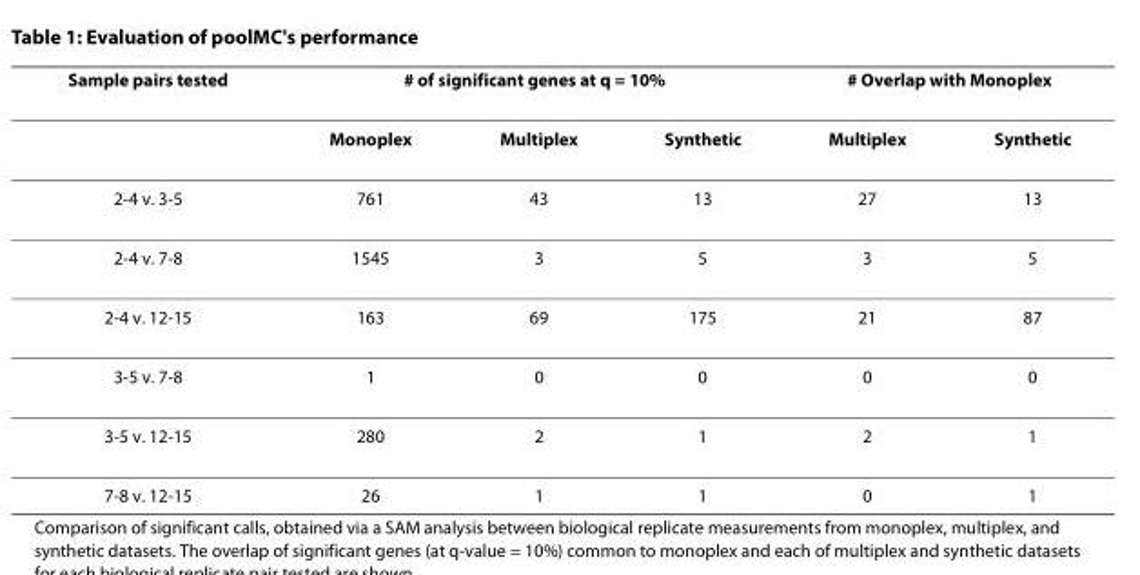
<table><thead><tr><td rowspan="2">Sample pairs tested</td><td colspan="3"># of significant genes at q = 10%</td><td colspan="2"># Overlap with Monoplex</td></tr><tr><td>Monoplex</td><td>Multiplex</td><td>Synthetic</td><td>Multiplex</td><td>Synthetic</td></tr></thead><tbody><tr><td>2-4 v. 3-5</td><td>761</td><td>43</td><td>13</td><td>27</td><td>13</td></tr><tr><td>2-4 v. 7-8</td><td>1545</td><td>3</td><td>5</td><td>3</td><td>5</td></tr><tr><td>2-4 v. 12-15</td><td>163</td><td>69</td><td>175</td><td>21</td><td>87</td></tr><tr><td>3-5 v. 7-8</td><td>1</td><td>0</td><td>0</td><td>0</td><td>0</td></tr><tr><td>3-5 v. 12-15</td><td>280</td><td>2</td><td>1</td><td>2</td><td>1</td></tr><tr><td>7-8 v. 12-15</td><td>26</td><td>1</td><td>1</td><td>0</td><td>1</td></tr></tbody></table>